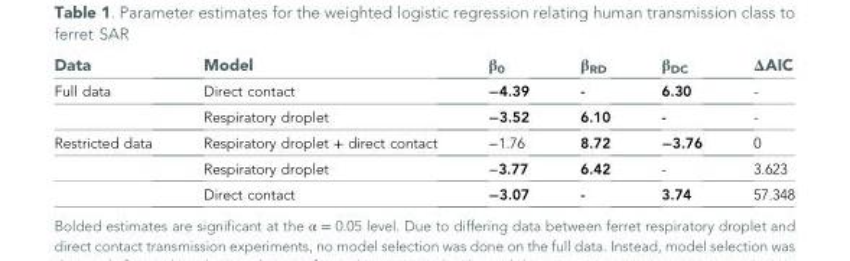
<table><thead><tr><td>Data</td><td>Model</td><td>β<sub>0</sub></td><td>β<sub>RD</sub></td><td>β<sub>DC</sub></td><td>ΔAIC</td></tr></thead><tbody><tr><td rowspan="2">Full data</td><td>Direct contact</td><td>−4.39</td><td>-</td><td>6.30</td><td>-</td></tr><tr><td>Respiratory droplet</td><td>−3.52</td><td>6.10</td><td>-</td><td>-</td></tr><tr><td rowspan="3">Restricted data</td><td>Respiratory droplet + direct contact</td><td>−1.76</td><td>8.72</td><td>−3.76</td><td>0</td></tr><tr><td>Respiratory droplet</td><td>−3.77</td><td>6.42</td><td>-</td><td>3.623</td></tr><tr><td>Direct contact</td><td>−3.07</td><td>-</td><td>3.74</td><td>57.348</td></tr></tbody></table>